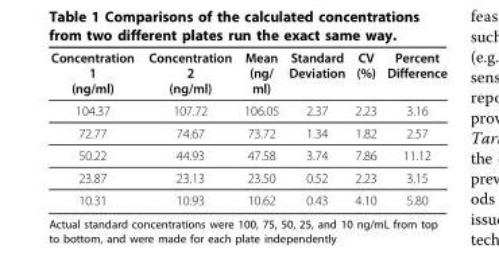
<table><thead><tr><td>Concentration 1 (ng/ml)</td><td>Concentration 2 (ng/ml)</td><td>Mean (ng/ ml)</td><td>Standard Deviation</td><td>CV (%)</td><td>Percent Difference</td></tr></thead><tbody><tr><td>104.37</td><td>107.72</td><td>106.05</td><td>2.37</td><td>2.23</td><td>3.16</td></tr><tr><td>72.77</td><td>74.67</td><td>73.72</td><td>1.34</td><td>1.82</td><td>2.57</td></tr><tr><td>50.22</td><td>44.93</td><td>47.58</td><td>3.74</td><td>7.86</td><td>11.12</td></tr><tr><td>23.87</td><td>23.13</td><td>23.50</td><td>0.52</td><td>2.23</td><td>3.15</td></tr><tr><td>10.31</td><td>10.93</td><td>10.62</td><td>0.43</td><td>4.10</td><td>5.80</td></tr></tbody></table>